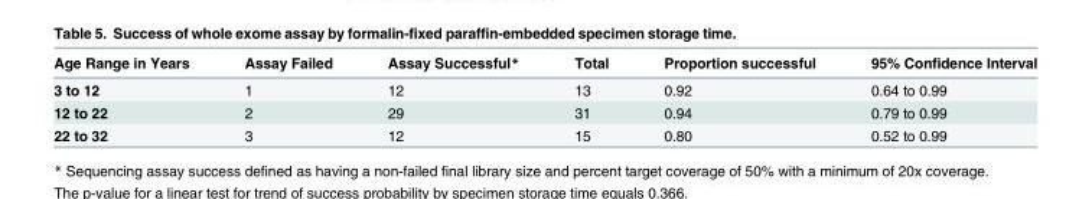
<table><thead><tr><td>Age Range in Years</td><td>Assay Failed</td><td>Assay Successful*</td><td>Total</td><td>Proportion successful</td><td>95% Confidence Interval</td></tr></thead><tbody><tr><td>3 to 12</td><td>1</td><td>12</td><td>13</td><td>0.92</td><td>0.64 to 0.99</td></tr><tr><td>12 to 22</td><td>2</td><td>29</td><td>31</td><td>0.94</td><td>0.79 to 0.99</td></tr><tr><td>22 to 32</td><td>3</td><td>12</td><td>15</td><td>0.80</td><td>0.52 to 0.99</td></tr></tbody></table>